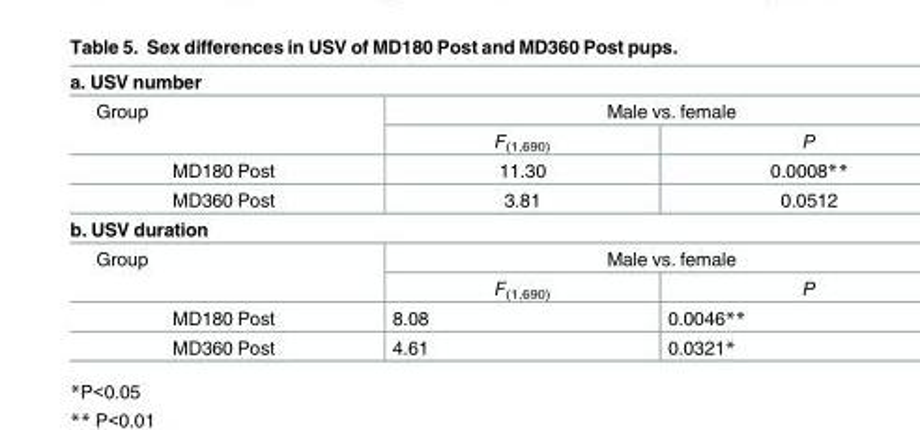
<table><tbody><tr><td colspan="3">a. USV number</td></tr><tr><td rowspan="2">Group</td><td colspan="2">Male vs. female</td></tr><tr><td>F<sub>(1,690)</sub></td><td>P</td></tr><tr><td>MD180 Post</td><td>11.30</td><td>0.0008**</td></tr><tr><td>MD360 Post</td><td>3.81</td><td>0.0512</td></tr><tr><td colspan="3">b. USV duration</td></tr><tr><td rowspan="2">Group</td><td colspan="2">Male vs. female</td></tr><tr><td>F<sub>(1,690)</sub></td><td>P</td></tr><tr><td>MD180 Post</td><td>8.08</td><td>0.0046**</td></tr><tr><td>MD360 Post</td><td>4.61</td><td>0.0321*</td></tr></tbody></table>